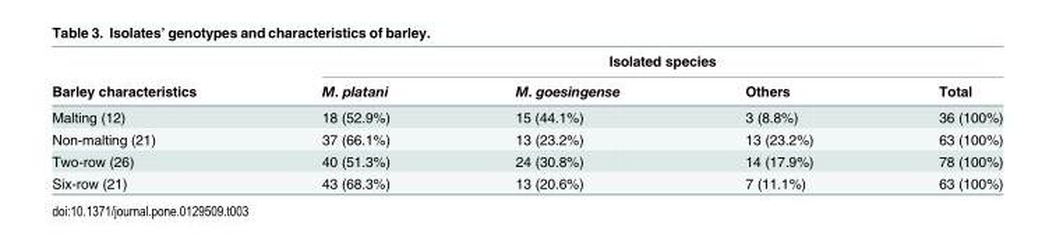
<table><thead><tr><td rowspan="2">Barley characteristics</td><td colspan="4">Isolated species</td></tr><tr><td>M. platani</td><td>M. goesingense</td><td>Others</td><td>Total</td></tr></thead><tbody><tr><td>Malting (12)</td><td>18 (52.9%)</td><td>15 (44.1%)</td><td>3 (8.8%)</td><td>36 (100%)</td></tr><tr><td>Non-malting (21)</td><td>37 (66.1%)</td><td>13 (23.2%)</td><td>13 (23.2%)</td><td>63 (100%)</td></tr><tr><td>Two-row (26)</td><td>40 (51.3%)</td><td>24 (30.8%)</td><td>14 (17.9%)</td><td>78 (100%)</td></tr><tr><td>Six-row (21)</td><td>43 (68.3%)</td><td>13 (20.6%)</td><td>7 (11.1%)</td><td>63 (100%)</td></tr></tbody></table>